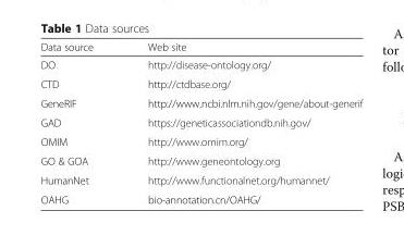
<table><thead><tr><td>Data source</td><td>Web site</td></tr></thead><tbody><tr><td>DO</td><td>http://disease-ontology.org/</td></tr><tr><td>CTD</td><td>http://ctdbase.org/</td></tr><tr><td>GeneRIF</td><td>http://www.ncbi.nlm.nih.gov/gene/about-generif</td></tr><tr><td>GAD</td><td>https://geneticassociationdb.nih.gov/</td></tr><tr><td>OMIM</td><td>http://www.omim.org/</td></tr><tr><td>GO &amp; GOA</td><td>http://www.geneontology.org</td></tr><tr><td>HumanNet</td><td>http://www.functionalnet.org/humannet/</td></tr><tr><td>OAHG</td><td>bio-annotation.cn/OAHG/</td></tr></tbody></table>